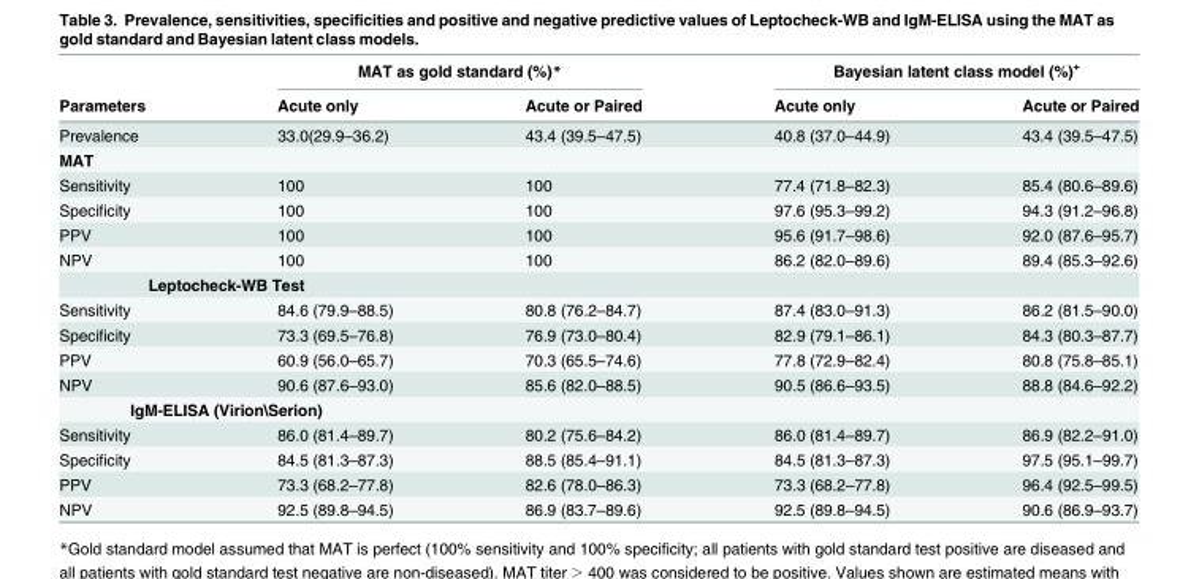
<table><thead><tr><td rowspan="2">Parameters</td><td colspan="2">MAT as gold standard (%)*</td><td colspan="2">Bayesian latent class model (%)<sup>+</sup></td></tr><tr><td>Acute only</td><td>Acute or Paired</td><td>Acute only</td><td>Acute or Paired</td></tr></thead><tbody><tr><td>Prevalence</td><td>33.0(29.9–36.2)</td><td>43.4 (39.5–47.5)</td><td>40.8 (37.0–44.9)</td><td>43.4 (39.5–47.5)</td></tr><tr><td colspan="5">MAT</td></tr><tr><td>Sensitivity</td><td>100</td><td>100</td><td>77.4 (71.8–82.3)</td><td>85.4 (80.6–89.6)</td></tr><tr><td>Specificity</td><td>100</td><td>100</td><td>97.6 (95.3–99.2)</td><td>94.3 (91.2–96.8)</td></tr><tr><td>PPV</td><td>100</td><td>100</td><td>95.6 (91.7–98.6)</td><td>92.0 (87.6–95.7)</td></tr><tr><td>NPV</td><td>100</td><td>100</td><td>86.2 (82.0–89.6)</td><td>89.4 (85.3–92.6)</td></tr><tr><td colspan="5">Leptocheck-WB Test</td></tr><tr><td>Sensitivity</td><td>84.6 (79.9–88.5)</td><td>80.8 (76.2–84.7)</td><td>87.4 (83.0–91.3)</td><td>86.2 (81.5–90.0)</td></tr><tr><td>Specificity</td><td>73.3 (69.5–76.8)</td><td>76.9 (73.0–80.4)</td><td>82.9 (79.1–86.1)</td><td>84.3 (80.3–87.7)</td></tr><tr><td>PPV</td><td>60.9 (56.0–65.7)</td><td>70.3 (65.5–74.6)</td><td>77.8 (72.9–82.4)</td><td>80.8 (75.8–85.1)</td></tr><tr><td>NPV</td><td>90.6 (87.6–93.0)</td><td>85.6 (82.0–88.5)</td><td>90.5 (86.6–93.5)</td><td>88.8 (84.6–92.2)</td></tr><tr><td colspan="5">IgM-ELISA (Virion\Serion)</td></tr><tr><td>Sensitivity</td><td>86.0 (81.4–89.7)</td><td>80.2 (75.6–84.2)</td><td>86.0 (81.4–89.7)</td><td>86.9 (82.2–91.0)</td></tr><tr><td>Specificity</td><td>84.5 (81.3–87.3)</td><td>88.5 (85.4–91.1)</td><td>84.5 (81.3–87.3)</td><td>97.5 (95.1–99.7)</td></tr><tr><td>PPV</td><td>73.3 (68.2–77.8)</td><td>82.6 (78.0–86.3)</td><td>73.3 (68.2–77.8)</td><td>96.4 (92.5–99.5)</td></tr><tr><td>NPV</td><td>92.5 (89.8–94.5)</td><td>86.9 (83.7–89.6)</td><td>92.5 (89.8–94.5)</td><td>90.6 (86.9–93.7)</td></tr></tbody></table>